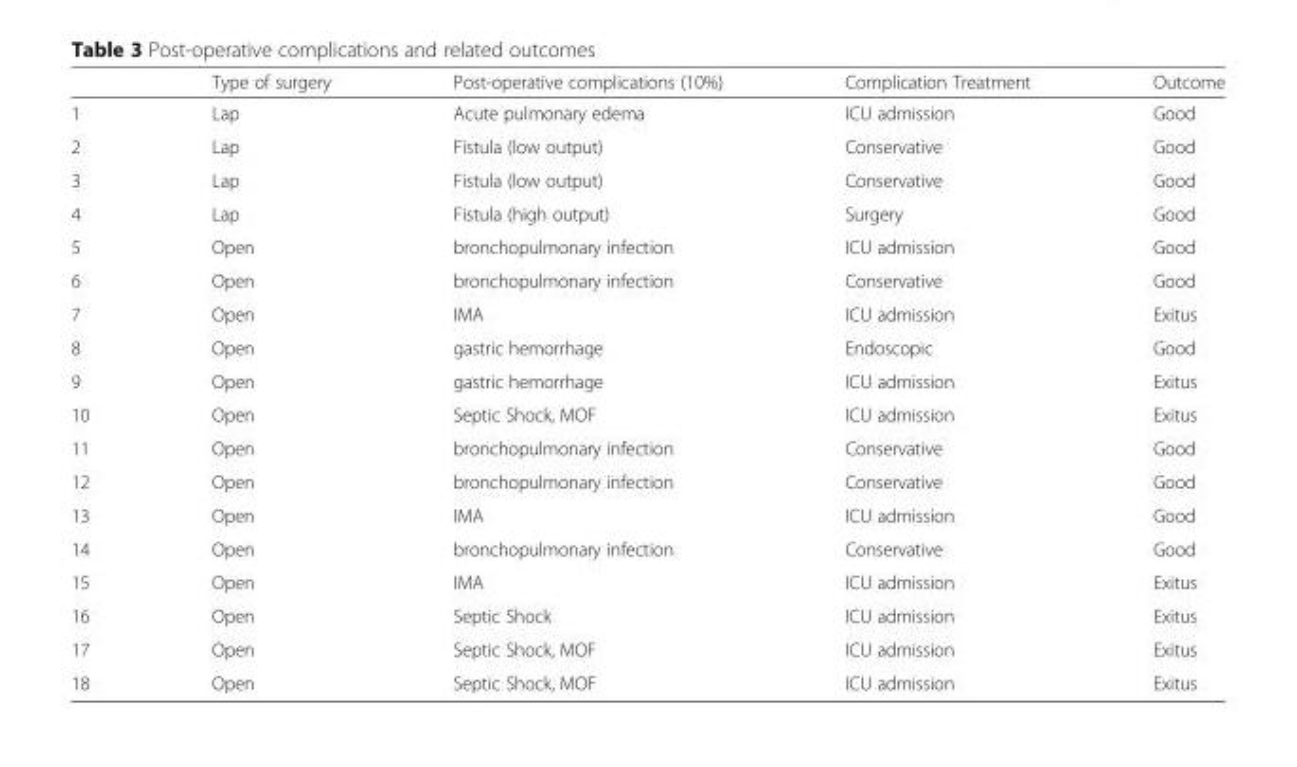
<table><thead><tr><td></td><td>Type of surgery</td><td>Post-operative complications (10%)</td><td>Complication Treatment</td><td>Outcome</td></tr></thead><tbody><tr><td>1</td><td>Lap</td><td>Acute pulmonary edema</td><td>ICU admission</td><td>Good</td></tr><tr><td>2</td><td>Lap</td><td>Fistula (low output)</td><td>Conservative</td><td>Good</td></tr><tr><td>3</td><td>Lap</td><td>Fistula (low output)</td><td>Conservative</td><td>Good</td></tr><tr><td>4</td><td>Lap</td><td>Fistula (high output)</td><td>Surgery</td><td>Good</td></tr><tr><td>5</td><td>Open</td><td>bronchopulmonary infection</td><td>ICU admission</td><td>Good</td></tr><tr><td>6</td><td>Open</td><td>bronchopulmonary infection</td><td>Conservative</td><td>Good</td></tr><tr><td>7</td><td>Open</td><td>IMA</td><td>ICU admission</td><td>Exitus</td></tr><tr><td>8</td><td>Open</td><td>gastric hemorrhage</td><td>Endoscopic</td><td>Good</td></tr><tr><td>9</td><td>Open</td><td>gastric hemorrhage</td><td>ICU admission</td><td>Exitus</td></tr><tr><td>10</td><td>Open</td><td>Septic Shock, MOF</td><td>ICU admission</td><td>Exitus</td></tr><tr><td>11</td><td>Open</td><td>bronchopulmonary infection</td><td>Conservative</td><td>Good</td></tr><tr><td>12</td><td>Open</td><td>bronchopulmonary infection</td><td>Conservative</td><td>Good</td></tr><tr><td>13</td><td>Open</td><td>IMA</td><td>ICU admission</td><td>Good</td></tr><tr><td>14</td><td>Open</td><td>bronchopulmonary infection</td><td>Conservative</td><td>Good</td></tr><tr><td>15</td><td>Open</td><td>IMA</td><td>ICU admission</td><td>Exitus</td></tr><tr><td>16</td><td>Open</td><td>Septic Shock</td><td>ICU admission</td><td>Exitus</td></tr><tr><td>17</td><td>Open</td><td>Septic Shock, MOF</td><td>ICU admission</td><td>Exitus</td></tr><tr><td>18</td><td>Open</td><td>Septic Shock, MOF</td><td>ICU admission</td><td>Exitus</td></tr></tbody></table>